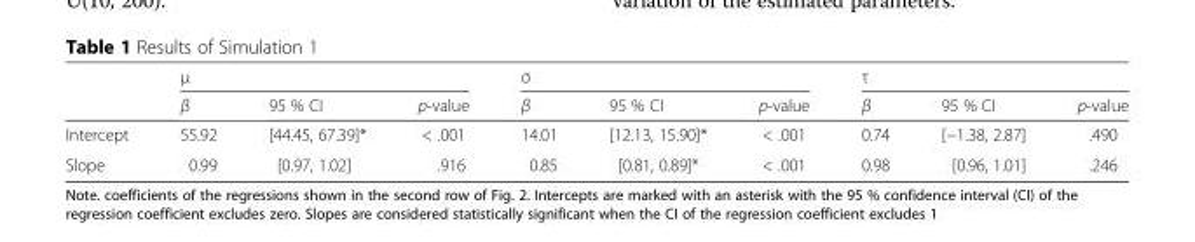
<table><thead><tr><td rowspan="2"></td><td colspan="3">μ</td><td colspan="3">σ</td><td colspan="3">τ</td></tr><tr><td>β</td><td>95 % CI</td><td>p-value</td><td>β</td><td>95 % CI</td><td>p-value</td><td>β</td><td>95 % CI</td><td>p-value</td></tr></thead><tbody><tr><td>Intercept</td><td>55.92</td><td>[44.45, 67.39]*</td><td>&lt; .001</td><td>14.01</td><td>[12.13, 15.90]*</td><td>&lt; .001</td><td>0.74</td><td>[−1.38, 2.87]</td><td>.490</td></tr><tr><td>Slope</td><td>0.99</td><td>[0.97, 1.02]</td><td>.916</td><td>0.85</td><td>[0.81, 0.89]*</td><td>&lt; .001</td><td>0.98</td><td>[0.96, 1.01]</td><td>.246</td></tr></tbody></table>